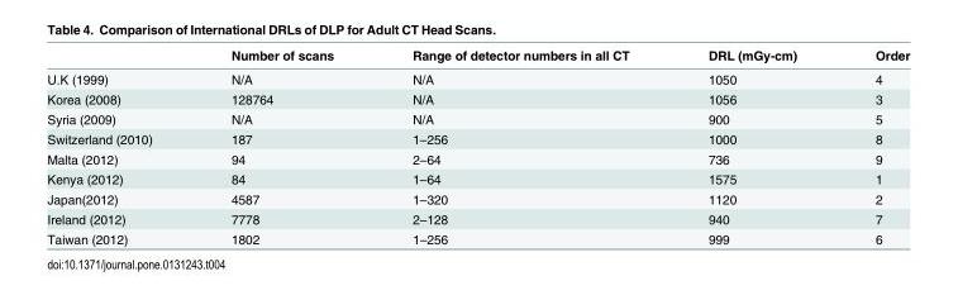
<table><thead><tr><td></td><td>Number of scans</td><td>Range of detector numbers in all CT</td><td>DRL (mGy-cm)</td><td>Order</td></tr></thead><tbody><tr><td>U.K (1999)</td><td>N/A</td><td>N/A</td><td>1050</td><td>4</td></tr><tr><td>Korea (2008)</td><td>128764</td><td>N/A</td><td>1056</td><td>3</td></tr><tr><td>Syria (2009)</td><td>N/A</td><td>N/A</td><td>900</td><td>5</td></tr><tr><td>Switzerland (2010)</td><td>187</td><td>1–256</td><td>1000</td><td>8</td></tr><tr><td>Malta (2012)</td><td>94</td><td>2–64</td><td>736</td><td>9</td></tr><tr><td>Kenya (2012)</td><td>84</td><td>1–64</td><td>1575</td><td>1</td></tr><tr><td>Japan(2012)</td><td>4587</td><td>1–320</td><td>1120</td><td>2</td></tr><tr><td>Ireland (2012)</td><td>7778</td><td>2–128</td><td>940</td><td>7</td></tr><tr><td>Taiwan (2012)</td><td>1802</td><td>1–256</td><td>999</td><td>6</td></tr></tbody></table>